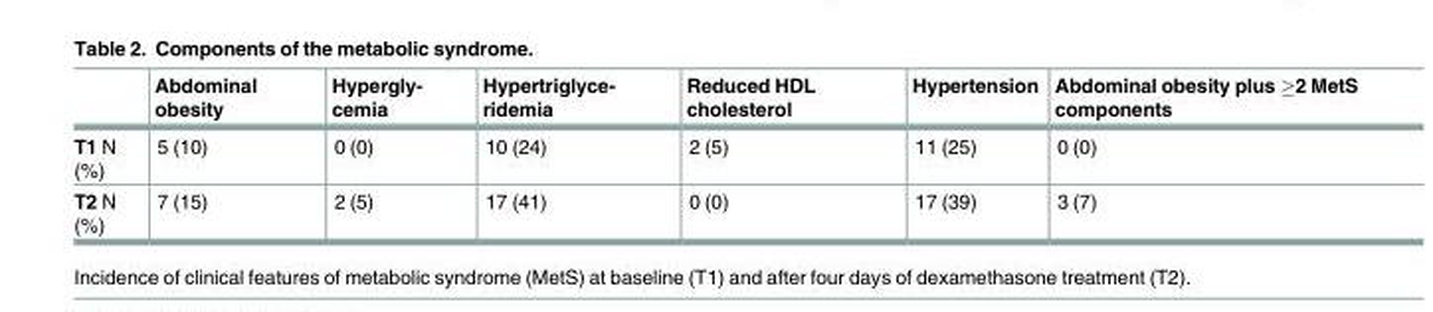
<table><thead><tr><td></td><td>Abdominal obesity</td><td>Hypergly- cemia</td><td>Hypertriglyce- ridemia</td><td>Reduced HDL cholesterol</td><td>Hypertension</td><td>Abdominal obesity plus ≥2 MetS components</td></tr></thead><tbody><tr><td>T1 N (%)</td><td>5 (10)</td><td>0 (0)</td><td>10 (24)</td><td>2 (5)</td><td>11 (25)</td><td>0 (0)</td></tr><tr><td>T2 N (%)</td><td>7 (15)</td><td>2 (5)</td><td>17 (41)</td><td>0 (0)</td><td>17 (39)</td><td>3 (7)</td></tr></tbody></table>